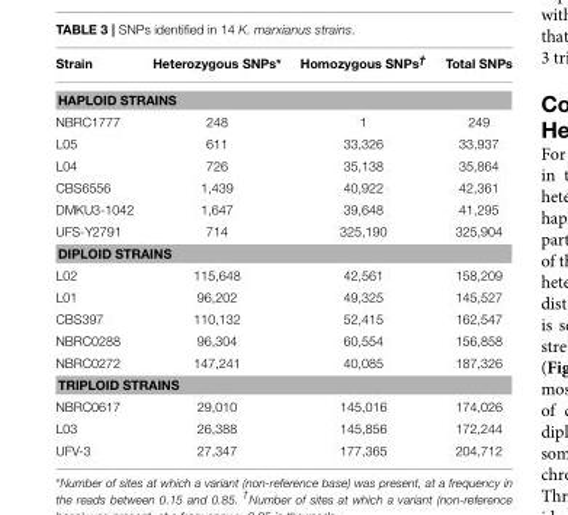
<table><thead><tr><td>Strain</td><td>Heterozygous SNPs*</td><td>Homozygous SNPs<sup>†</sup></td><td>Total SNPs</td></tr></thead><tbody><tr><td colspan="4">HAPLOID STRAINS</td></tr><tr><td>NBRC1777</td><td>248</td><td>1</td><td>249</td></tr><tr><td>L05</td><td>611</td><td>33,326</td><td>33,937</td></tr><tr><td>L04</td><td>726</td><td>35,138</td><td>35,864</td></tr><tr><td>CBS6556</td><td>1,439</td><td>40,922</td><td>42,361</td></tr><tr><td>DMKU3-1042</td><td>1,647</td><td>39,648</td><td>41,295</td></tr><tr><td>UFS-Y2791</td><td>714</td><td>325,190</td><td>325,904</td></tr><tr><td colspan="4">DIPLOID STRAINS</td></tr><tr><td>L02</td><td>115,648</td><td>42,561</td><td>158,209</td></tr><tr><td>L01</td><td>96,202</td><td>49,325</td><td>145,527</td></tr><tr><td>CBS397</td><td>110,132</td><td>52,415</td><td>162,547</td></tr><tr><td>NBRC0288</td><td>96,304</td><td>60,554</td><td>156,858</td></tr><tr><td>NBRC0272</td><td>147,241</td><td>40,085</td><td>187,326</td></tr><tr><td colspan="4">TRIPLOID STRAINS</td></tr><tr><td>NBRC0617</td><td>29,010</td><td>145,016</td><td>174,026</td></tr><tr><td>L03</td><td>26,388</td><td>145,856</td><td>172,244</td></tr><tr><td>UFV-3</td><td>27,347</td><td>177,365</td><td>204,712</td></tr></tbody></table>